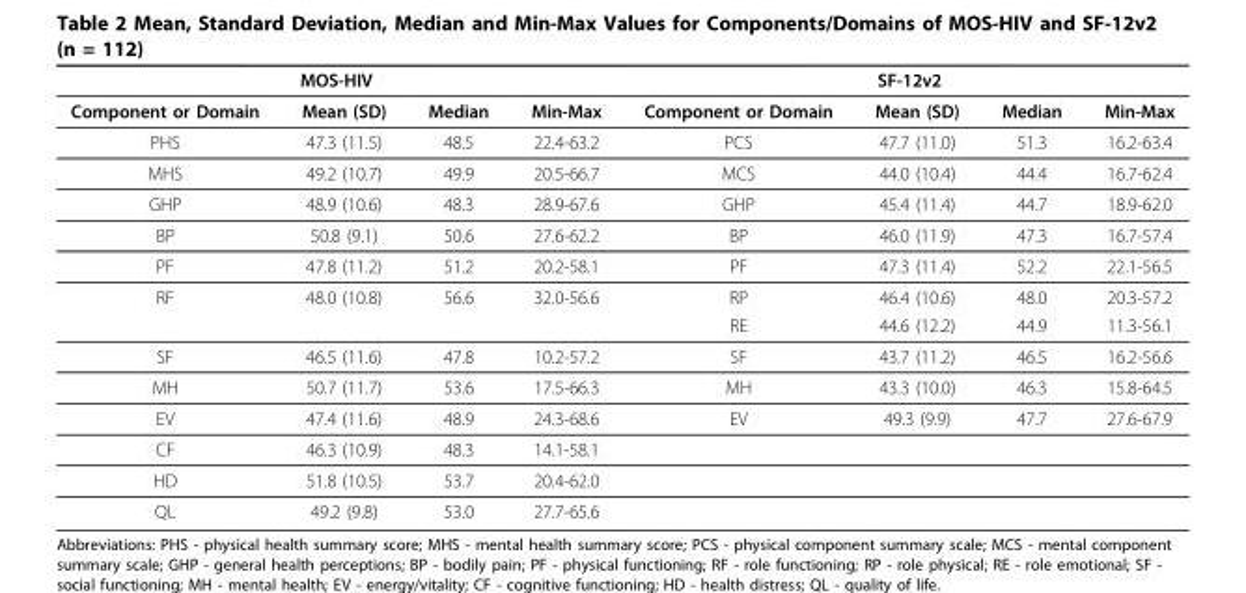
<table><thead><tr><td colspan="4">MOS-HIV</td><td colspan="4">SF-12v2</td></tr><tr><td>Component or Domain</td><td>Mean (SD)</td><td>Median</td><td>Min-Max</td><td>Component or Domain</td><td>Mean (SD)</td><td>Median</td><td>Min-Max</td></tr></thead><tbody><tr><td>PHS</td><td>47.3 (11.5)</td><td>48.5</td><td>22.4-63.2</td><td>PCS</td><td>47.7 (11.0)</td><td>51.3</td><td>16.2-63.4</td></tr><tr><td>MHS</td><td>49.2 (10.7)</td><td>49.9</td><td>20.5-66.7</td><td>MCS</td><td>44.0 (10.4)</td><td>44.4</td><td>16.7-62.4</td></tr><tr><td>GHP</td><td>48.9 (10.6)</td><td>48.3</td><td>28.9-67.6</td><td>GHP</td><td>45.4 (11.4)</td><td>44.7</td><td>18.9-62.0</td></tr><tr><td>BP</td><td>50.8 (9.1)</td><td>50.6</td><td>27.6-62.2</td><td>BP</td><td>46.0 (11.9)</td><td>47.3</td><td>16.7-57.4</td></tr><tr><td>PF</td><td>47.8 (11.2)</td><td>51.2</td><td>20.2-58.1</td><td>PF</td><td>47.3 (11.4)</td><td>52.2</td><td>22.1-56.5</td></tr><tr><td rowspan="2">RF</td><td>48.0 (10.8)</td><td>56.6</td><td>32.0-56.6</td><td>RP</td><td>46.4 (10.6)</td><td>48.0</td><td>20.3-57.2</td></tr><tr><td></td><td></td><td></td><td>RE</td><td>44.6 (12.2)</td><td>44.9</td><td>11.3-56.1</td></tr><tr><td>SF</td><td>46.5 (11.6)</td><td>47.8</td><td>10.2-57.2</td><td>SF</td><td>43.7 (11.2)</td><td>46.5</td><td>16.2-56.6</td></tr><tr><td>MH</td><td>50.7 (11.7)</td><td>53.6</td><td>17.5-66.3</td><td>MH</td><td>43.3 (10.0)</td><td>46.3</td><td>15.8-64.5</td></tr><tr><td>EV</td><td>47.4 (11.6)</td><td>48.9</td><td>24.3-68.6</td><td>EV</td><td>49.3 (9.9)</td><td>47.7</td><td>27.6-67.9</td></tr><tr><td>CF</td><td>46.3 (10.9)</td><td>48.3</td><td>14.1-58.1</td><td></td><td></td><td></td><td></td></tr><tr><td>HD</td><td>51.8 (10.5)</td><td>53.7</td><td>20.4-62.0</td><td></td><td></td><td></td><td></td></tr><tr><td>QL</td><td>49.2 (9.8)</td><td>53.0</td><td>27.7-65.6</td><td></td><td></td><td></td><td></td></tr></tbody></table>